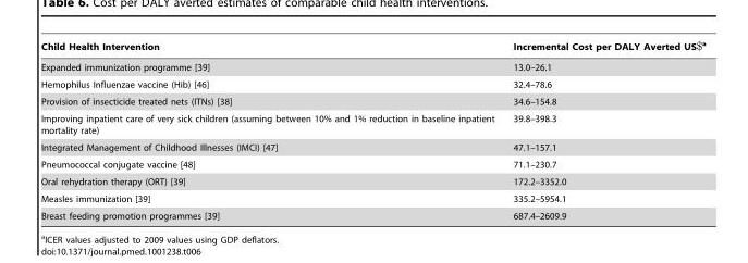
<table><thead><tr><td>Child Health Intervention</td><td>Incremental Cost per DALY Averted US$<sup>a</sup></td></tr></thead><tbody><tr><td>Expanded immunization programme [39]</td><td>13.0–26.1</td></tr><tr><td>Hemophilus Influenzae vaccine (Hib) [46]</td><td>32.4–78.6</td></tr><tr><td>Provision of insecticide treated nets (ITNs) [38]</td><td>34.6–154.8</td></tr><tr><td>Improving inpatient care of very sick children (assuming between 10% and 1% reduction in baseline inpatient mortality rate)</td><td>39.8–398.3</td></tr><tr><td>Integrated Management of Childhood Illnesses (IMCI) [47]</td><td>47.1–157.1</td></tr><tr><td>Pneumococcal conjugate vaccine [48]</td><td>71.1–230.7</td></tr><tr><td>Oral rehydration therapy (ORT) [39]</td><td>172.2–3352.0</td></tr><tr><td>Measles immunization [39]</td><td>335.2–5954.1</td></tr><tr><td>Breast feeding promotion programmes [39]</td><td>687.4–2609.9</td></tr></tbody></table>